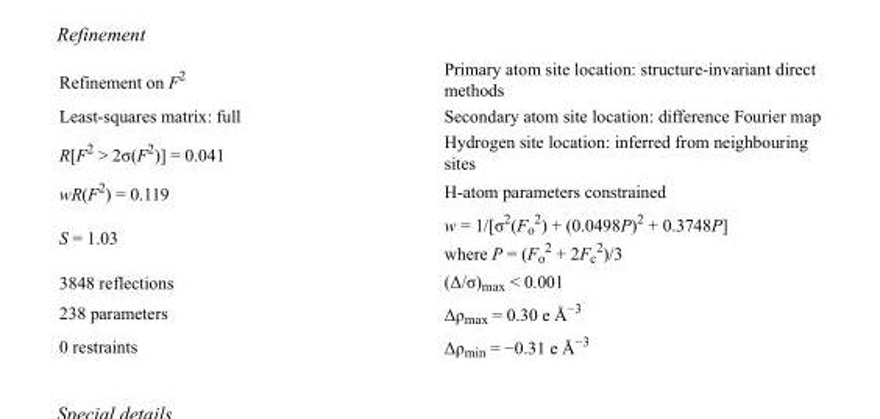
<table><tbody><tr><td>Refinement on F<sup>2</sup></td><td>Primary atom site location: structure-invariant direct methods</td></tr><tr><td>Least-squares matrix: full</td><td>Secondary atom site location: difference Fourier map</td></tr><tr><td>R[F<sup>2</sup> &gt; 2σ(F<sup>2</sup>)] = 0.041</td><td>Hydrogen site location: inferred from neighbouring sites</td></tr><tr><td>wR(F<sup>2</sup>) = 0.119</td><td>H-atom parameters constrained</td></tr><tr><td>S = 1.03</td><td>w = 1/[σ<sup>2</sup>(F<sub>o</sub> <sup>2</sup>) + (0.0498P)<sup>2</sup> + 0.3748P] where P = (F<sub>o</sub> <sup>2</sup> + 2F<sub>c</sub> <sup>2</sup>)/3</td></tr><tr><td>3848 reflections</td><td>(Δ/σ)<sub>max</sub> &lt; 0.001</td></tr><tr><td>238 parameters</td><td>Δρ<sub>max</sub> = 0.30 e Å<sup>−3</sup></td></tr><tr><td>0 restraints</td><td>Δρmin = −0.31 e Å−3</td></tr></tbody></table>